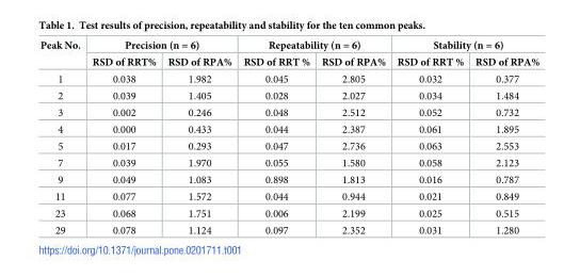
<table><thead><tr><td rowspan="2">Peak No.</td><td colspan="2">Precision (n = 6)</td><td colspan="2">Repeatability (n = 6)</td><td colspan="2">Stability (n = 6)</td></tr><tr><td>RSD of RRT%</td><td>RSD of RPA%</td><td>RSD of RRT %</td><td>RSD of RPA%</td><td>RSD of RRT %</td><td>RSD of RPA%</td></tr></thead><tbody><tr><td>1</td><td>0.038</td><td>1.982</td><td>0.045</td><td>2.805</td><td>0.032</td><td>0.377</td></tr><tr><td>2</td><td>0.039</td><td>1.405</td><td>0.028</td><td>2.027</td><td>0.034</td><td>1.484</td></tr><tr><td>3</td><td>0.002</td><td>0.246</td><td>0.048</td><td>2.512</td><td>0.052</td><td>0.732</td></tr><tr><td>4</td><td>0.000</td><td>0.433</td><td>0.044</td><td>2.387</td><td>0.061</td><td>1.895</td></tr><tr><td>5</td><td>0.017</td><td>0.293</td><td>0.047</td><td>2.736</td><td>0.063</td><td>2.553</td></tr><tr><td>7</td><td>0.039</td><td>1.970</td><td>0.055</td><td>1.580</td><td>0.058</td><td>2.123</td></tr><tr><td>9</td><td>0.049</td><td>1.083</td><td>0.898</td><td>1.813</td><td>0.016</td><td>0.787</td></tr><tr><td>11</td><td>0.077</td><td>1.572</td><td>0.044</td><td>0.944</td><td>0.021</td><td>0.849</td></tr><tr><td>23</td><td>0.068</td><td>1.751</td><td>0.006</td><td>2.199</td><td>0.025</td><td>0.515</td></tr><tr><td>29</td><td>0.078</td><td>1.124</td><td>0.097</td><td>2.352</td><td>0.031</td><td>1.280</td></tr></tbody></table>